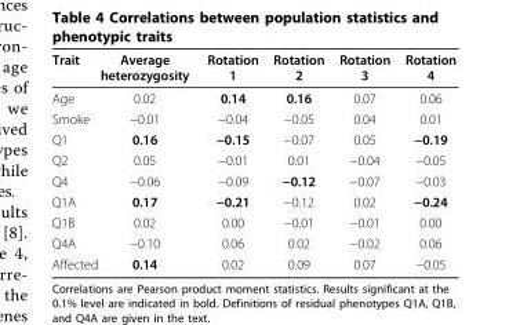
<table><thead><tr><td>Trait</td><td>Average heterozygosity</td><td>Rotation 1</td><td>Rotation 2</td><td>Rotation 3</td><td>Rotation 4</td></tr></thead><tbody><tr><td>Age</td><td>0.02</td><td>0.14</td><td>0.16</td><td>0.07</td><td>0.06</td></tr><tr><td>Smoke</td><td>−0.01</td><td>−0.04</td><td>−0.05</td><td>0.04</td><td>0.01</td></tr><tr><td>Q1</td><td>0.16</td><td>−0.15</td><td>−0.07</td><td>0.05</td><td>−0.19</td></tr><tr><td>Q2</td><td>0.05</td><td>−0.01</td><td>0.01</td><td>−0.04</td><td>−0.05</td></tr><tr><td>Q4</td><td>−0.06</td><td>−0.09</td><td>−0.12</td><td>−0.07</td><td>−0.03</td></tr><tr><td>Q1A</td><td>0.17</td><td>−0.21</td><td>−0.12</td><td>0.02</td><td>−0.24</td></tr><tr><td>Q1B</td><td>0.02</td><td>0.00</td><td>−0.01</td><td>−0.01</td><td>0.00</td></tr><tr><td>Q4A</td><td>−0.10</td><td>0.06</td><td>0.02</td><td>−0.02</td><td>0.06</td></tr><tr><td>Affected</td><td>0.14</td><td>0.02</td><td>0.09</td><td>0.07</td><td>−0.05</td></tr></tbody></table>